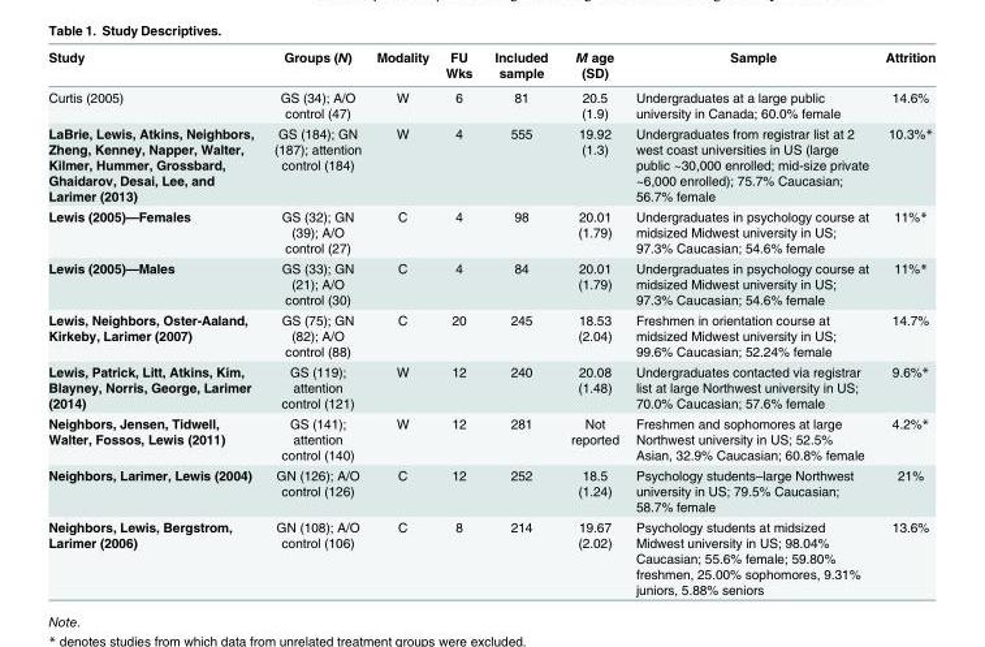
<table><thead><tr><td rowspan="2">Study Curtis (2005)</td><td rowspan="2">Groups (N) GS (34); A/O control (47)</td><td rowspan="2">Modality W</td><td rowspan="2">FU Wks 6</td><td rowspan="2">Included sample 81</td><td rowspan="2">M age (SD) 20.5 (1.9)</td><td rowspan="2">Sample Undergraduates at a large public university in Canada; 60.0% female</td><td rowspan="2">Attrition 14.6%</td></tr><tr></tr></thead><tbody><tr><td>LaBrie, Lewis, Atkins, Neighbors, Zheng, Kenney, Napper, Walter, Kilmer, Hummer, Grossbard, Ghaidarov, Desai, Lee, and Larimer (2013)</td><td>GS (184); GN (187); attention control (184)</td><td>W</td><td>4</td><td>555</td><td>19.92 (1.3)</td><td>Undergraduates from registrar list at 2 west coast universities in US (large public ~30,000 enrolled; mid-size private ~6,000 enrolled); 75.7% Caucasian; 56.7% female</td><td>10.3%*</td></tr><tr><td>Lewis (2005)—Females</td><td>GS (32); GN (39); A/O control (27)</td><td>C</td><td>4</td><td>98</td><td>20.01 (1.79)</td><td>Undergraduates in psychology course at midsized Midwest university in US; 97.3% Caucasian; 54.6% female</td><td>11%*</td></tr><tr><td>Lewis (2005)—Males</td><td>GS (33); GN (21); A/O control (30)</td><td>C</td><td>4</td><td>84</td><td>20.01 (1.79)</td><td>Undergraduates in psychology course at midsized Midwest university in US; 97.3% Caucasian; 54.6% female</td><td>11%*</td></tr><tr><td>Lewis, Neighbors, Oster-Aaland, Kirkeby, Larimer (2007)</td><td>GS (75); GN (82); A/O control (88)</td><td>C</td><td>20</td><td>245</td><td>18.53 (2.04)</td><td>Freshmen in orientation course at midsized Midwest university in US; 99.6% Caucasian; 52.24% female</td><td>14.7%</td></tr><tr><td>Lewis, Patrick, Litt, Atkins, Kim, Blayney, Norris, George, Larimer (2014)</td><td>GS (119); attention control (121)</td><td>W</td><td>12</td><td>240</td><td>20.08 (1.48)</td><td>Undergraduates contacted via registrar list at large Northwest university in US; 70.0% Caucasian; 57.6% female</td><td>9.6%*</td></tr><tr><td>Neighbors, Jensen, Tidwell, Walter, Fossos, Lewis (2011)</td><td>GS (141); attention control (140)</td><td>W</td><td>12</td><td>281</td><td>Not reported</td><td>Freshmen and sophomores at large Northwest university in US; 52.5% Asian, 32.9% Caucasian; 60.8% female</td><td>4.2%*</td></tr><tr><td>Neighbors, Larimer, Lewis (2004)</td><td>GN (126); A/O control (126)</td><td>C</td><td>12</td><td>252</td><td>18.5 (1.24)</td><td>Psychology students–large Northwest university in US; 79.5% Caucasian; 58.7% female</td><td>21%</td></tr><tr><td>Neighbors, Lewis, Bergstrom, Larimer (2006)</td><td>GN (108); A/O control (106)</td><td>C</td><td>8</td><td>214</td><td>19.67 (2.02)</td><td>Psychology students at midsized Midwest university in US; 98.04% Caucasian; 55.6% female; 59.80% freshmen, 25.00% sophomores, 9.31% juniors, 5.88% seniors</td><td>13.6%</td></tr></tbody></table>